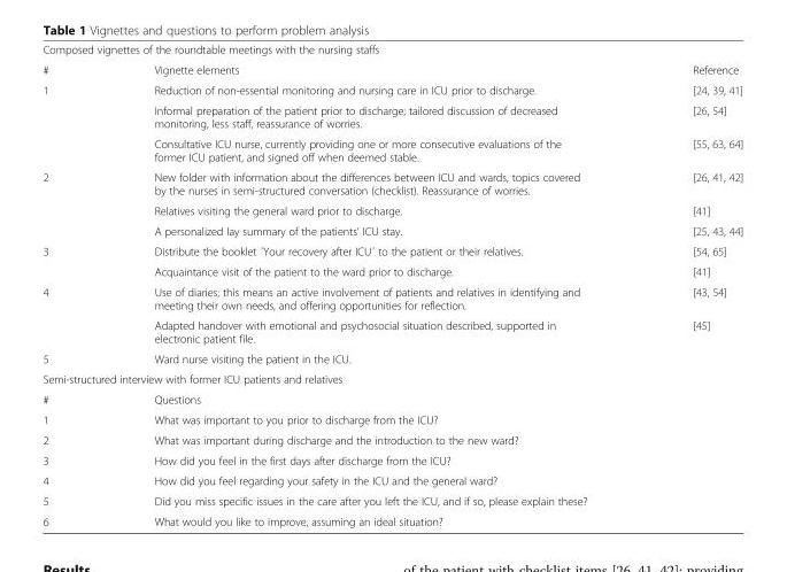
<table><tbody><tr><td colspan="3">Composed vignettes of the roundtable meetings with the nursing staffs</td></tr><tr><td>#</td><td>Vignette elements</td><td>Reference</td></tr><tr><td rowspan="3">1</td><td>Reduction of non-essential monitoring and nursing care in ICU prior to discharge.</td><td>[24, 39, 41]</td></tr><tr><td>Informal preparation of the patient prior to discharge; tailored discussion of decreased monitoring, less staff, reassurance of worries.</td><td>[26, 54]</td></tr><tr><td>Consultative ICU nurse, currently providing one or more consecutive evaluations of the former ICU patient, and signed off when deemed stable.</td><td>[55, 63, 64]</td></tr><tr><td rowspan="3">2</td><td>New folder with information about the differences between ICU and wards, topics covered by the nurses in semi-structured conversation (checklist). Reassurance of worries.</td><td>[26, 41, 42]</td></tr><tr><td>Relatives visiting the general ward prior to discharge.</td><td>[41]</td></tr><tr><td>A personalized lay summary of the patients’ ICU stay.</td><td>[25, 43, 44]</td></tr><tr><td rowspan="2">3</td><td>Distribute the booklet ´Your recovery after ICU´ to the patient or their relatives.</td><td>[54, 65]</td></tr><tr><td>Acquaintance visit of the patient to the ward prior to discharge.</td><td>[41]</td></tr><tr><td rowspan="2">4</td><td>Use of diaries; this means an active involvement of patients and relatives in identifying and meeting their own needs, and offering opportunities for reflection.</td><td>[43, 54]</td></tr><tr><td>Adapted handover with emotional and psychosocial situation described, supported in electronic patient file.</td><td>[45]</td></tr><tr><td>5</td><td>Ward nurse visiting the patient in the ICU.</td><td></td></tr><tr><td colspan="3">Semi-structured interview with former ICU patients and relatives</td></tr><tr><td>#</td><td>Questions</td><td></td></tr><tr><td>1</td><td>What was important to you prior to discharge from the ICU?</td><td></td></tr><tr><td>2</td><td>What was important during discharge and the introduction to the new ward?</td><td></td></tr><tr><td>3</td><td>How did you feel in the first days after discharge from the ICU?</td><td></td></tr><tr><td>4</td><td>How did you feel regarding your safety in the ICU and the general ward?</td><td></td></tr><tr><td>5</td><td>Did you miss specific issues in the care after you left the ICU, and if so, please explain these?</td><td></td></tr><tr><td>6</td><td>What would you like to improve, assuming an ideal situation?</td><td></td></tr></tbody></table>